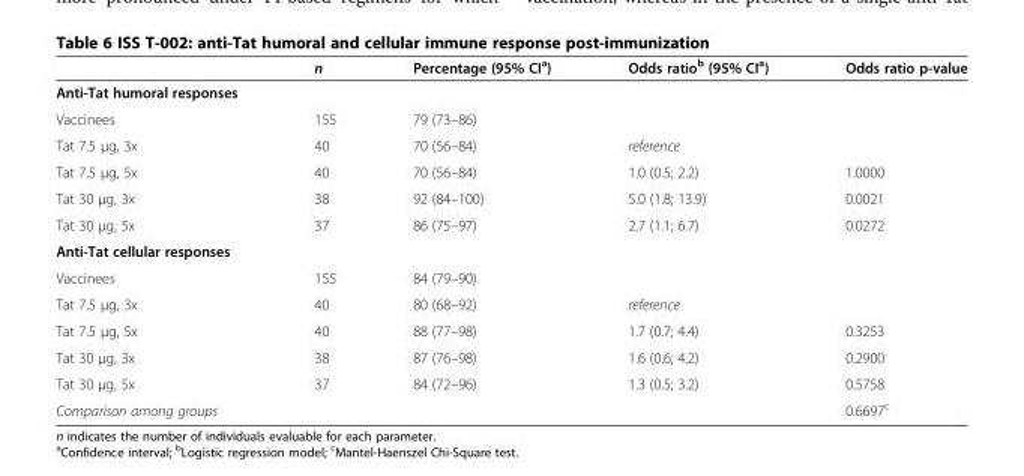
<table><thead><tr><td></td><td>n</td><td>Percentage (95% CI<sup>a</sup>)</td><td>Odds ratio<sup>b</sup> (95% CI<sup>a</sup>)</td><td>Odds ratio p-value</td></tr></thead><tbody><tr><td colspan="5">Anti-Tat humoral responses</td></tr><tr><td>Vaccinees</td><td>155</td><td>79 (73–86)</td><td></td><td></td></tr><tr><td>Tat 7.5 μg, 3x</td><td>40</td><td>70 (56–84)</td><td>reference</td><td></td></tr><tr><td>Tat 7.5 μg, 5x</td><td>40</td><td>70 (56–84)</td><td>1.0 (0.5; 2.2)</td><td>1.0000</td></tr><tr><td>Tat 30 μg, 3x</td><td>38</td><td>92 (84–100)</td><td>5.0 (1.8; 13.9)</td><td>0.0021</td></tr><tr><td>Tat 30 μg, 5x</td><td>37</td><td>86 (75–97)</td><td>2.7 (1.1; 6.7)</td><td>0.0272</td></tr><tr><td colspan="5">Anti-Tat cellular responses</td></tr><tr><td>Vaccinees</td><td>155</td><td>84 (79–90)</td><td></td><td></td></tr><tr><td>Tat 7.5 μg, 3x</td><td>40</td><td>80 (68–92)</td><td>reference</td><td></td></tr><tr><td>Tat 7.5 μg, 5x</td><td>40</td><td>88 (77–98)</td><td>1.7 (0.7; 4.4)</td><td>0.3253</td></tr><tr><td>Tat 30 μg, 3x</td><td>38</td><td>87 (76–98)</td><td>1.6 (0.6; 4.2)</td><td>0.2900</td></tr><tr><td>Tat 30 μg, 5x</td><td>37</td><td>84 (72–96)</td><td>1.3 (0.5; 3.2)</td><td>0.5758</td></tr><tr><td>Comparison among groups</td><td></td><td></td><td></td><td>0.6697<sup>c</sup></td></tr></tbody></table>